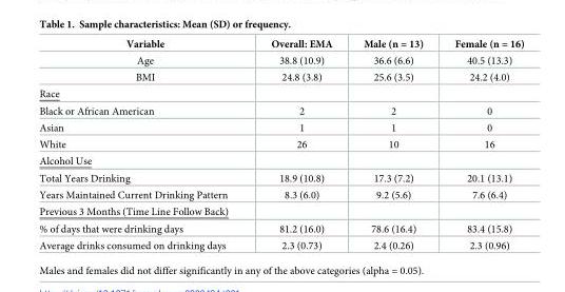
<table><thead><tr><td>Variable</td><td>Overall: EMA</td><td>Male (n = 13)</td><td>Female (n = 16)</td></tr></thead><tbody><tr><td>Age</td><td>38.8 (10.9)</td><td>36.6 (6.6)</td><td>40.5 (13.3)</td></tr><tr><td>BMI</td><td>24.8 (3.8)</td><td>25.6 (3.5)</td><td>24.2 (4.0)</td></tr><tr><td colspan="4">Race</td></tr><tr><td>Black or African American</td><td>2</td><td>2</td><td>0</td></tr><tr><td>Asian</td><td>1</td><td>1</td><td>0</td></tr><tr><td>White</td><td>26</td><td>10</td><td>16</td></tr><tr><td colspan="4">Alcohol Use</td></tr><tr><td>Total Years Drinking</td><td>18.9 (10.8)</td><td>17.3 (7.2)</td><td>20.1 (13.1)</td></tr><tr><td>Years Maintained Current Drinking Pattern</td><td>8.3 (6.0)</td><td>9.2 (5.6)</td><td>7.6 (6.4)</td></tr><tr><td colspan="4">Previous 3 Months (Time Line Follow Back)</td></tr><tr><td>% of days that were drinking days</td><td>81.2 (16.0)</td><td>78.6 (16.4)</td><td>83.4 (15.8)</td></tr><tr><td>Average drinks consumed on drinking days</td><td>2.3 (0.73)</td><td>2.4 (0.26)</td><td>2.3 (0.96)</td></tr></tbody></table>